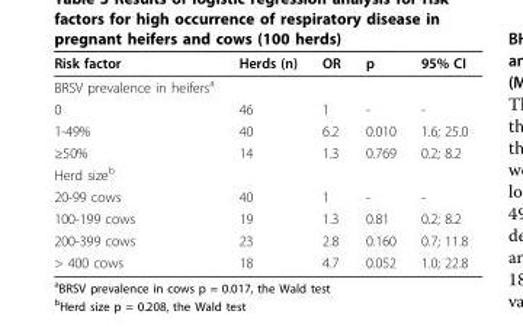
<table><thead><tr><td>Risk factor</td><td>Herds (n)</td><td>OR</td><td>p</td><td>95% CI</td></tr></thead><tbody><tr><td colspan="5">BRSV prevalence in heifers<sup>a</sup></td></tr><tr><td>0</td><td>46</td><td>1</td><td>-</td><td>-</td></tr><tr><td>1-49%</td><td>40</td><td>6.2</td><td>0.010</td><td>1.6; 25.0</td></tr><tr><td>≥50%</td><td>14</td><td>1.3</td><td>0.769</td><td>0.2; 8.2</td></tr><tr><td colspan="5">Herd size<sup>b</sup></td></tr><tr><td>20-99 cows</td><td>40</td><td>1</td><td>-</td><td>-</td></tr><tr><td>100-199 cows</td><td>19</td><td>1.3</td><td>0.81</td><td>0.2; 8.2</td></tr><tr><td>200-399 cows</td><td>23</td><td>2.8</td><td>0.160</td><td>0.7; 11.8</td></tr><tr><td>&gt; 400 cows</td><td>18</td><td>4.7</td><td>0.052</td><td>1.0; 22.8</td></tr></tbody></table>